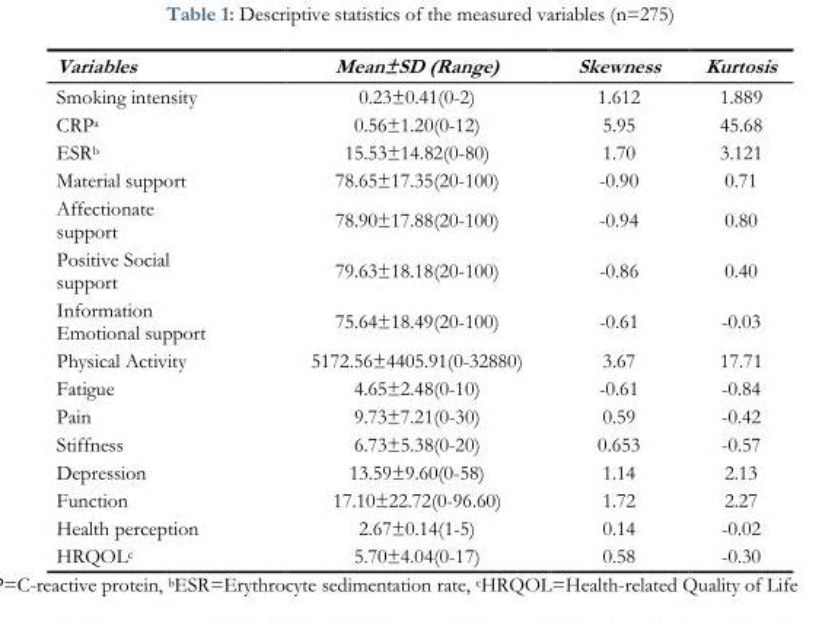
<table><thead><tr><td>Variables</td><td>Mean±SD (Range)</td><td>Skewness</td><td>Kurtosis</td></tr></thead><tbody><tr><td>Smoking intensity</td><td>0.23±0.41(0-2)</td><td>1.612</td><td>1.889</td></tr><tr><td>CRP<sup>a</sup></td><td>0.56±1.20(0-12)</td><td>5.95</td><td>45.68</td></tr><tr><td>ESR<sup>b</sup></td><td>15.53±14.82(0-80)</td><td>1.70</td><td>3.121</td></tr><tr><td>Material support</td><td>78.65±17.35(20-100)</td><td>-0.90</td><td>0.71</td></tr><tr><td>Affectionate support</td><td>78.90±17.88(20-100)</td><td>-0.94</td><td>0.80</td></tr><tr><td>Positive Social support</td><td>79.63±18.18(20-100)</td><td>-0.86</td><td>0.40</td></tr><tr><td>Information Emotional support</td><td>75.64±18.49(20-100)</td><td>-0.61</td><td>-0.03</td></tr><tr><td>Physical Activity</td><td>5172.56±4405.91(0-32880)</td><td>3.67</td><td>17.71</td></tr><tr><td>Fatigue</td><td>4.65±2.48(0-10)</td><td>-0.61</td><td>-0.84</td></tr><tr><td>Pain</td><td>9.73±7.21(0-30)</td><td>0.59</td><td>-0.42</td></tr><tr><td>Stiffness</td><td>6.73±5.38(0-20)</td><td>0.653</td><td>-0.57</td></tr><tr><td>Depression</td><td>13.59±9.60(0-58)</td><td>1.14</td><td>2.13</td></tr><tr><td>Function</td><td>17.10±22.72(0-96.60)</td><td>1.72</td><td>2.27</td></tr><tr><td>Health perception</td><td>2.67±0.14(1-5)</td><td>0.14</td><td>-0.02</td></tr><tr><td>HRQOL<sup>c</sup></td><td>5.70±4.04(0-17)</td><td>0.58</td><td>-0.30</td></tr></tbody></table>